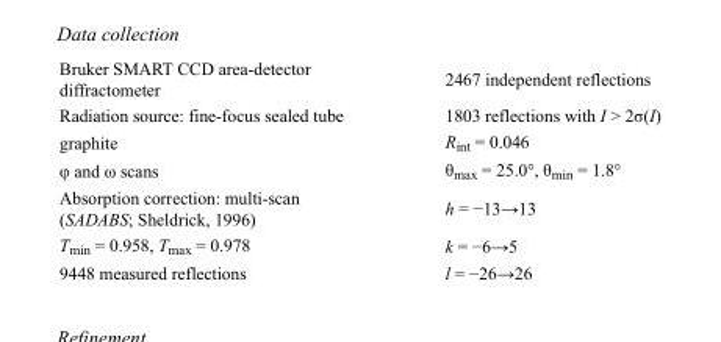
<table><tbody><tr><td>Bruker SMART CCD area-detector diffractometer</td><td>2467 independent reflections</td></tr><tr><td>Radiation source: fine-focus sealed tube</td><td>1803 reflections with I &gt; 2σ(I)</td></tr><tr><td>graphite</td><td>R<sub>int</sub> = 0.046</td></tr><tr><td>φ and ω scans</td><td>θ<sub>max</sub> = 25.0°, θ<sub>min</sub> = 1.8°</td></tr><tr><td>Absorption correction: multi-scan (SADABS; Sheldrick, 1996)</td><td>h = −13→13</td></tr><tr><td>T<sub>min</sub> = 0.958, T<sub>max</sub> = 0.978</td><td>k = −6→5</td></tr><tr><td>9448 measured reflections</td><td>l = −26→26</td></tr></tbody></table>